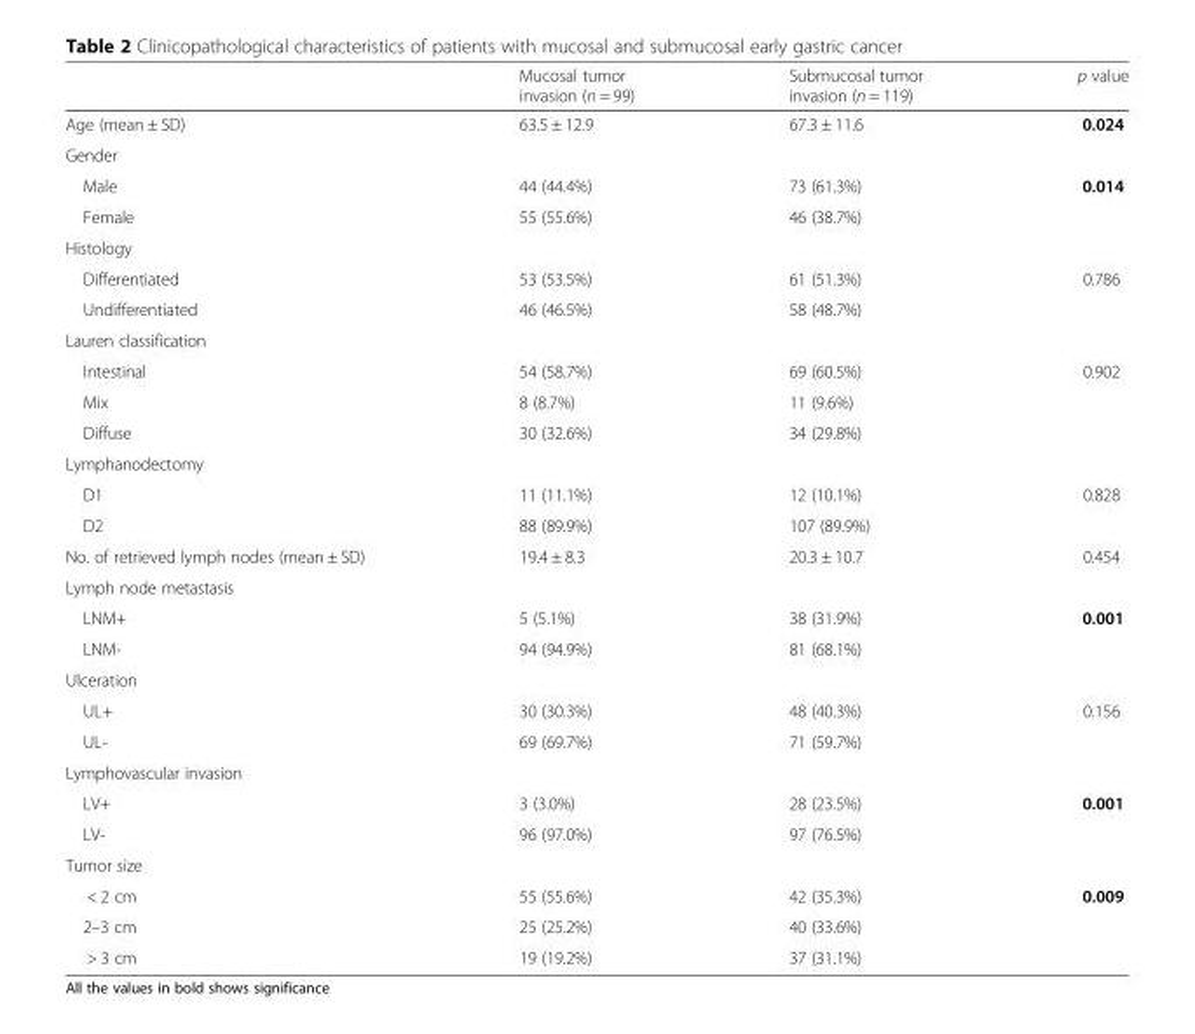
<table><thead><tr><td></td><td>Mucosal tumor invasion (n = 99)</td><td>Submucosal tumor invasion (n = 119)</td><td>p value</td></tr></thead><tbody><tr><td>Age (mean ± SD)</td><td>63.5 ± 12.9</td><td>67.3 ± 11.6</td><td>0.024</td></tr><tr><td colspan="4">Gender</td></tr><tr><td>Male</td><td>44 (44.4%)</td><td>73 (61.3%)</td><td rowspan="2">0.014</td></tr><tr><td>Female</td><td>55 (55.6%)</td><td>46 (38.7%)</td></tr><tr><td colspan="4">Histology</td></tr><tr><td>Differentiated</td><td>53 (53.5%)</td><td>61 (51.3%)</td><td rowspan="2">0.786</td></tr><tr><td>Undifferentiated</td><td>46 (46.5%)</td><td>58 (48.7%)</td></tr><tr><td colspan="4">Lauren classification</td></tr><tr><td>Intestinal</td><td>54 (58.7%)</td><td>69 (60.5%)</td><td rowspan="3">0.902</td></tr><tr><td>Mix</td><td>8 (8.7%)</td><td>11 (9.6%)</td></tr><tr><td>Diffuse</td><td>30 (32.6%)</td><td>34 (29.8%)</td></tr><tr><td colspan="4">Lymphanodectomy</td></tr><tr><td>D1</td><td>11 (11.1%)</td><td>12 (10.1%)</td><td rowspan="2">0.828</td></tr><tr><td>D2</td><td>88 (89.9%)</td><td>107 (89.9%)</td></tr><tr><td>No. of retrieved lymph nodes (mean ± SD)</td><td>19.4 ± 8.3</td><td>20.3 ± 10.7</td><td>0.454</td></tr><tr><td colspan="4">Lymph node metastasis</td></tr><tr><td>LNM+</td><td>5 (5.1%)</td><td>38 (31.9%)</td><td rowspan="2">0.001</td></tr><tr><td>LNM-</td><td>94 (94.9%)</td><td>81 (68.1%)</td></tr><tr><td colspan="4">Ulceration</td></tr><tr><td>UL+</td><td>30 (30.3%)</td><td>48 (40.3%)</td><td rowspan="2">0.156</td></tr><tr><td>UL-</td><td>69 (69.7%)</td><td>71 (59.7%)</td></tr><tr><td colspan="4">Lymphovascular invasion</td></tr><tr><td>LV+</td><td>3 (3.0%)</td><td>28 (23.5%)</td><td rowspan="2">0.001</td></tr><tr><td>LV-</td><td>96 (97.0%)</td><td>97 (76.5%)</td></tr><tr><td colspan="4">Tumor size</td></tr><tr><td>&lt; 2 cm</td><td>55 (55.6%)</td><td>42 (35.3%)</td><td rowspan="3">0.009</td></tr><tr><td>2–3 cm</td><td>25 (25.2%)</td><td>40 (33.6%)</td></tr><tr><td>&gt; 3 cm</td><td>19 (19.2%)</td><td>37 (31.1%)</td></tr></tbody></table>